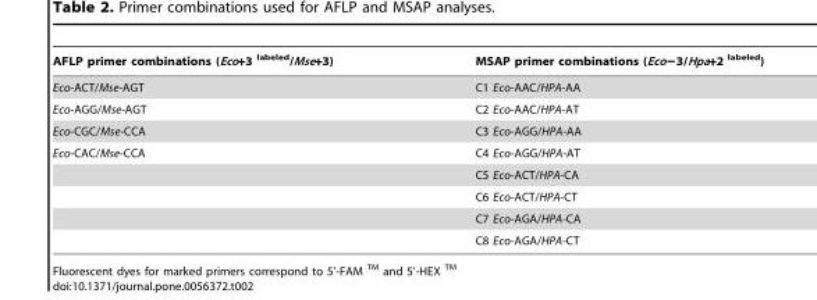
<table><thead><tr><td>AFLP primer combinations (Eco+3 <sup>labeled</sup>/Mse+3)</td><td>MSAP primer combinations (Eco−3/Hpa+2 <sup>labeled</sup>)</td></tr></thead><tbody><tr><td>Eco-ACT/Mse-AGT</td><td>C1 Eco-AAC/HPA-AA</td></tr><tr><td>Eco-AGG/Mse-AGT</td><td>C2 Eco-AAC/HPA-AT</td></tr><tr><td>Eco-CGC/Mse-CCA</td><td>C3 Eco-AGG/HPA-AA</td></tr><tr><td rowspan="5">Eco-CAC/Mse-CCA</td><td>C4 Eco-AGG/HPA-AT</td></tr><tr><td>C5 Eco-ACT/HPA-CA</td></tr><tr><td>C6 Eco-ACT/HPA-CT</td></tr><tr><td>C7 Eco-AGA/HPA-CA</td></tr><tr><td>C8 Eco-AGA/HPA-CT</td></tr></tbody></table>